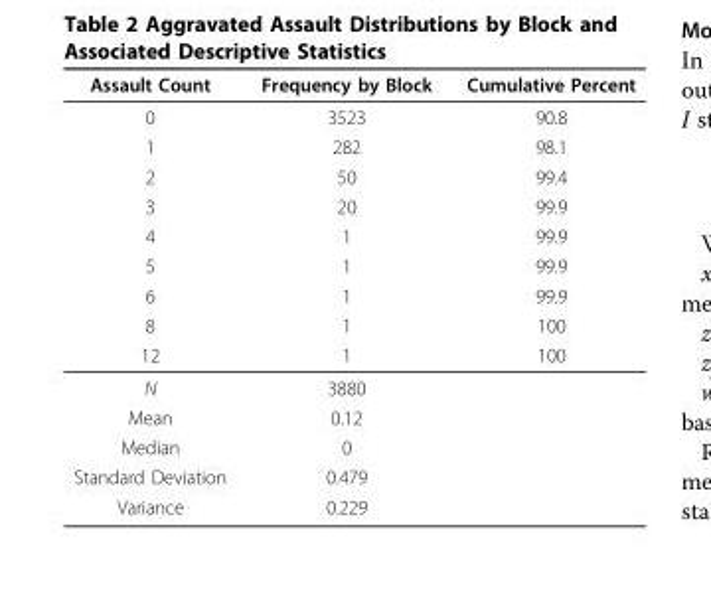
<table><thead><tr><td>Assault Count</td><td>Frequency by Block</td><td>Cumulative Percent</td></tr></thead><tbody><tr><td>0</td><td>3523</td><td>90.8</td></tr><tr><td>1</td><td>282</td><td>98.1</td></tr><tr><td>2</td><td>50</td><td>99.4</td></tr><tr><td>3</td><td>20</td><td>99.9</td></tr><tr><td>4</td><td>1</td><td>99.9</td></tr><tr><td>5</td><td>1</td><td>99.9</td></tr><tr><td>6</td><td>1</td><td>99.9</td></tr><tr><td>8</td><td>1</td><td>100</td></tr><tr><td>12</td><td>1</td><td>100</td></tr><tr><td>N</td><td>3880</td><td></td></tr><tr><td>Mean</td><td>0.12</td><td></td></tr><tr><td>Median</td><td>0</td><td></td></tr><tr><td>Standard Deviation</td><td>0.479</td><td></td></tr><tr><td>Variance</td><td>0.229</td><td></td></tr></tbody></table>